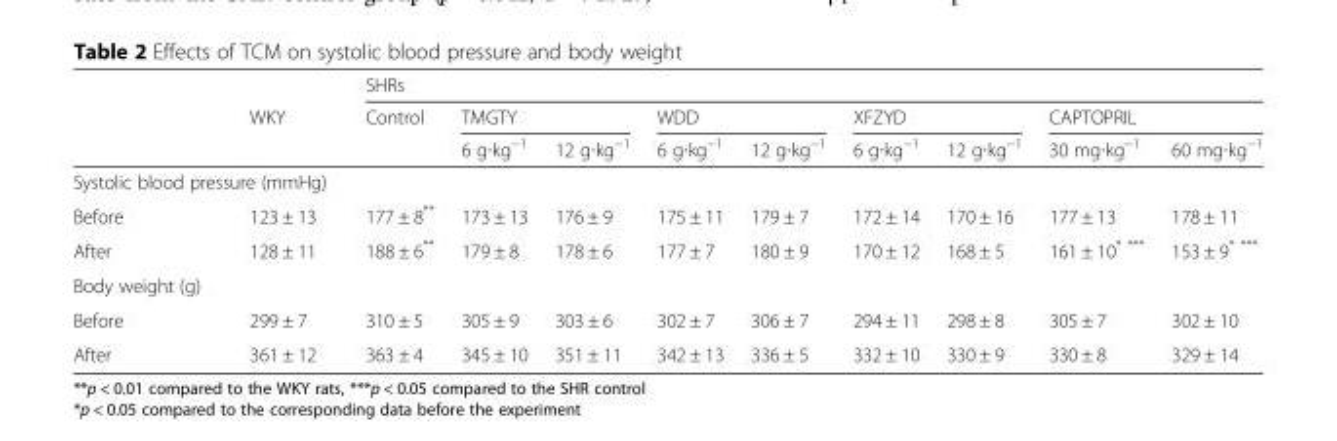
<table><thead><tr><td rowspan="3"></td><td rowspan="3">WKY</td><td colspan="9">SHRs</td></tr><tr><td rowspan="2">Control</td><td colspan="2">TMGTY</td><td colspan="2">WDD</td><td colspan="2">XFZYD</td><td colspan="2">CAPTOPRIL</td></tr><tr><td>6 g∙kg<sup>−1</sup></td><td>12 g∙kg<sup>−1</sup></td><td>6 g∙kg<sup>−1</sup></td><td>12 g∙kg<sup>−1</sup></td><td>6 g∙kg<sup>−1</sup></td><td>12 g∙kg<sup>−1</sup></td><td>30 mg∙kg<sup>−1</sup></td><td>60 mg∙kg<sup>−1</sup></td></tr></thead><tbody><tr><td colspan="11">Systolic blood pressure (mmHg)</td></tr><tr><td>Before</td><td>123 ± 13</td><td>177 ± 8**</td><td>173 ± 13</td><td>176 ± 9</td><td>175 ± 11</td><td>179 ± 7</td><td>172 ± 14</td><td>170 ± 16</td><td>177 ± 13</td><td>178 ± 11</td></tr><tr><td>After</td><td>128 ± 11</td><td>188 ± 6**</td><td>179 ± 8</td><td>178 ± 6</td><td>177 ± 7</td><td>180 ± 9</td><td>170 ± 12</td><td>168 ± 5</td><td>161 ± 10* ***</td><td>153 ± 9* ***</td></tr><tr><td colspan="11">Body weight (g)</td></tr><tr><td>Before</td><td>299 ± 7</td><td>310 ± 5</td><td>305 ± 9</td><td>303 ± 6</td><td>302 ± 7</td><td>306 ± 7</td><td>294 ± 11</td><td>298 ± 8</td><td>305 ± 7</td><td>302 ± 10</td></tr><tr><td>After</td><td>361 ± 12</td><td>363 ± 4</td><td>345 ± 10</td><td>351 ± 11</td><td>342 ± 13</td><td>336 ± 5</td><td>332 ± 10</td><td>330 ± 9</td><td>330 ± 8</td><td>329 ± 14</td></tr></tbody></table>